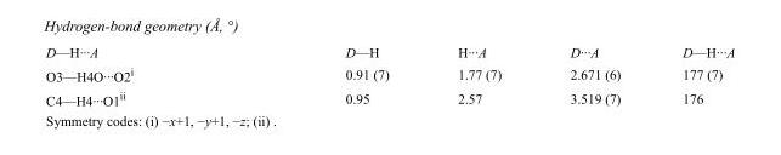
<table><tbody><tr><td>D—H···A</td><td>D—H</td><td>H···A</td><td>D···A</td><td>D—H···A</td></tr><tr><td>O3—H4O···O2<sup>i</sup></td><td>0.91 (7)</td><td>1.77 (7)</td><td>2.671 (6)</td><td>177 (7)</td></tr><tr><td>C4—H4···O1<sup>ii</sup></td><td>0.95</td><td>2.57</td><td>3.519 (7)</td><td>176</td></tr></tbody></table>